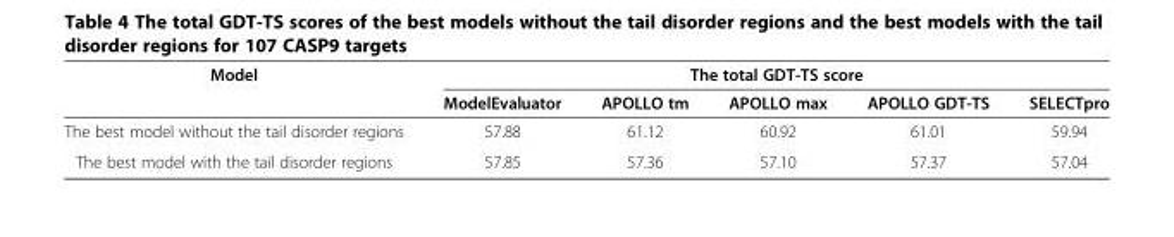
<table><thead><tr><td rowspan="2">Model</td><td colspan="5">The total GDT-TS score</td></tr><tr><td>ModelEvaluator</td><td>APOLLO tm</td><td>APOLLO max</td><td>APOLLO GDT-TS</td><td>SELECTpro</td></tr></thead><tbody><tr><td>The best model without the tail disorder regions</td><td>57.88</td><td>61.12</td><td>60.92</td><td>61.01</td><td>59.94</td></tr><tr><td>The best model with the tail disorder regions</td><td>57.85</td><td>57.36</td><td>57.10</td><td>57.37</td><td>57.04</td></tr></tbody></table>